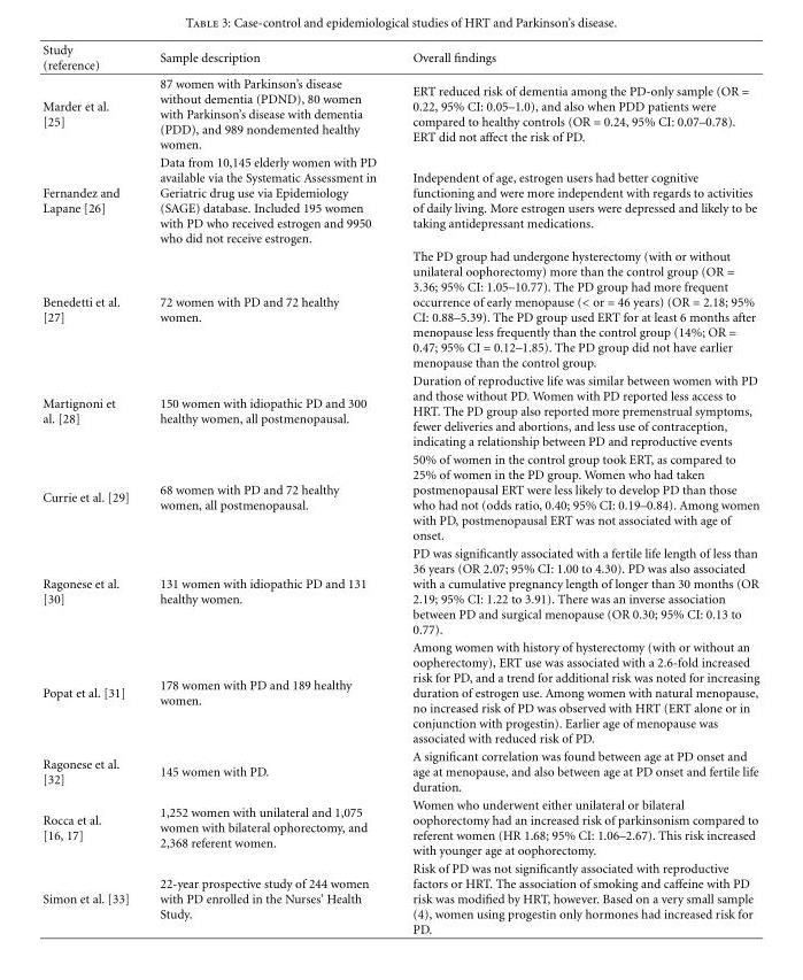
<table><thead><tr><td>Study (reference)</td><td>Sample description</td><td>Overall findings</td></tr></thead><tbody><tr><td>Marder et al. [25]</td><td>87 women with Parkinson’s disease without dementia (PDND), 80 women with Parkinson’s disease with dementia (PDD), and 989 nondemented healthy women.</td><td>ERT reduced risk of dementia among the PD-only sample (OR = 0.22, 95% CI: 0.05–1.0), and also when PDD patients were compared to healthy controls (OR = 0.24, 95% CI: 0.07–0.78). ERT did not affect the risk of PD.</td></tr><tr><td>Fernandez and Lapane [26]</td><td>Data from 10,145 elderly women with PD available via the Systematic Assessment in Geriatric drug use via Epidemiology (SAGE) database. Included 195 women with PD who received estrogen and 9950 who did not receive estrogen.</td><td>Independent of age, estrogen users had better cognitive functioning and were more independent with regards to activities of daily living. More estrogen users were depressed and likely to be taking antidepressant medications.</td></tr><tr><td>Benedetti et al. [27]</td><td>72 women with PD and 72 healthy women.</td><td>The PD group had undergone hysterectomy (with or without unilateral oophorectomy) more than the control group (OR = 3.36; 95% CI: 1.05–10.77). The PD group had more frequent occurrence of early menopause (&lt; or = 46 years) (OR = 2.18; 95% CI: 0.88–5.39). The PD group used ERT for at least 6 months after menopause less frequently than the control group (14%; OR = 0.47; 95% CI = 0.12–1.85). The PD group did not have earlier menopause than the control group.</td></tr><tr><td>Martignoni et al. [28]</td><td>150 women with idiopathic PD and 300 healthy women, all postmenopausal.</td><td>Duration of reproductive life was similar between women with PD and those without PD. Women with PD reported less access to HRT. The PD group also reported more premenstrual symptoms, fewer deliveries and abortions, and less use of contraception, indicating a relationship between PD and reproductive events</td></tr><tr><td>Currie et al. [29]</td><td>68 women with PD and 72 healthy women, all postmenopausal.</td><td>50% of women in the control group took ERT, as compared to 25% of women in the PD group. Women who had taken postmenopausal ERT were less likely to develop PD than those who had not (odds ratio, 0.40; 95% CI: 0.19–0.84). Among women with PD, postmenopausal ERT was not associated with age of onset.</td></tr><tr><td>Ragonese et al. [30]</td><td>131 women with idiopathic PD and 131 healthy women.</td><td>PD was significantly associated with a fertile life length of less than 36 years (OR 2.07; 95% CI: 1.00 to 4.30). PD was also associated with a cumulative pregnancy length of longer than 30 months (OR 2.19; 95% CI: 1.22 to 3.91). There was an inverse association between PD and surgical menopause (OR 0.30; 95% CI: 0.13 to 0.77).</td></tr><tr><td>Popat et al. [31]</td><td>178 women with PD and 189 healthy women.</td><td>Among women with history of hysterectomy (with or without an oopherectomy), ERT use was associated with a 2.6-fold increased risk for PD, and a trend for additional risk was noted for increasing duration of estrogen use. Among women with natural menopause, no increased risk of PD was observed with HRT (ERT alone or in conjunction with progestin). Earlier age of menopause was associated with reduced risk of PD.</td></tr><tr><td>Ragonese et al. [32]</td><td>145 women with PD.</td><td>A significant correlation was found between age at PD onset and age at menopause, and also between age at PD onset and fertile life duration.</td></tr><tr><td>Rocca et al. [16, 17]</td><td>1,252 women with unilateral and 1,075 women with bilateral ophorectomy, and 2,368 referent women.</td><td>Women who underwent either unilateral or bilateral oophorectomy had an increased risk of parkinsonism compared to referent women (HR 1.68; 95% CI: 1.06–2.67). This risk increased with younger age at oophorectomy.</td></tr><tr><td>Simon et al. [33]</td><td>22-year prospective study of 244 women with PD enrolled in the Nurses’ Health Study.</td><td>Risk of PD was not significantly associated with reproductive factors or HRT. The association of smoking and caffeine with PD risk was modified by HRT, however. Based on a very small sample (4), women using progestin only hormones had increased risk for PD.</td></tr></tbody></table>